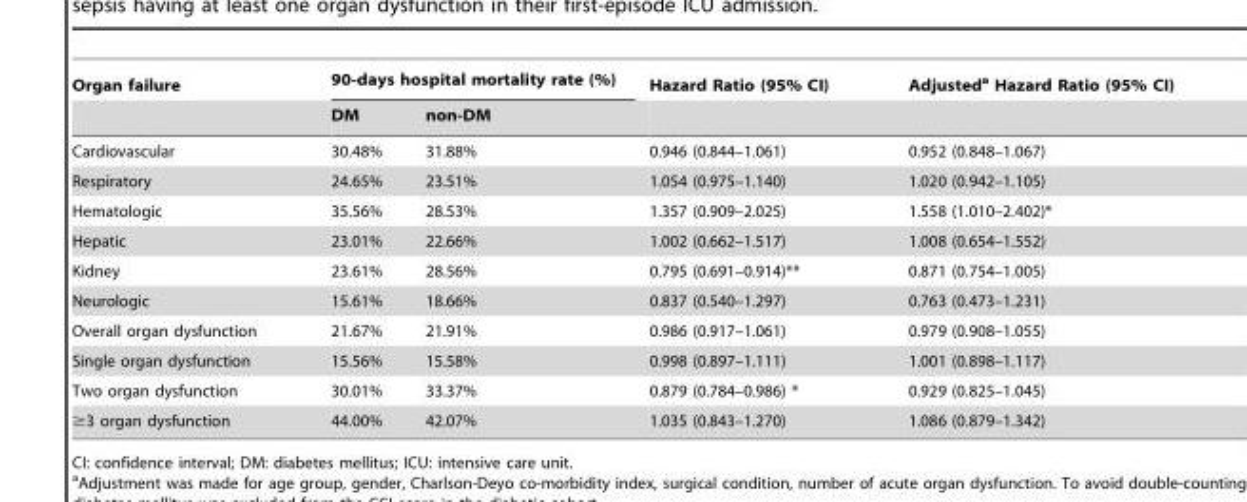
<table><thead><tr><td rowspan="2">Organ failure</td><td colspan="2">90-days hospital mortality rate (%)</td><td rowspan="2">Hazard Ratio (95% CI)</td><td rowspan="2">Adjusted<sup>a</sup> Hazard Ratio (95% CI)</td></tr><tr><td>DM</td><td>non-DM</td></tr></thead><tbody><tr><td>Cardiovascular</td><td>30.48%</td><td>31.88%</td><td>0.946 (0.844–1.061)</td><td>0.952 (0.848–1.067)</td></tr><tr><td>Respiratory</td><td>24.65%</td><td>23.51%</td><td>1.054 (0.975–1.140)</td><td>1.020 (0.942–1.105)</td></tr><tr><td>Hematologic</td><td>35.56%</td><td>28.53%</td><td>1.357 (0.909–2.025)</td><td>1.558 (1.010–2.402)*</td></tr><tr><td>Hepatic</td><td>23.01%</td><td>22.66%</td><td>1.002 (0.662–1.517)</td><td>1.008 (0.654–1.552)</td></tr><tr><td>Kidney</td><td>23.61%</td><td>28.56%</td><td>0.795 (0.691–0.914)**</td><td>0.871 (0.754–1.005)</td></tr><tr><td>Neurologic</td><td>15.61%</td><td>18.66%</td><td>0.837 (0.540–1.297)</td><td>0.763 (0.473–1.231)</td></tr><tr><td>Overall organ dysfunction</td><td>21.67%</td><td>21.91%</td><td>0.986 (0.917–1.061)</td><td>0.979 (0.908–1.055)</td></tr><tr><td>Single organ dysfunction</td><td>15.56%</td><td>15.58%</td><td>0.998 (0.897–1.111)</td><td>1.001 (0.898–1.117)</td></tr><tr><td>Two organ dysfunction</td><td>30.01%</td><td>33.37%</td><td>0.879 (0.784–0.986) *</td><td>0.929 (0.825–1.045)</td></tr><tr><td>≥3 organ dysfunction</td><td>44.00%</td><td>42.07%</td><td>1.035 (0.843–1.270)</td><td>1.086 (0.879–1.342)</td></tr></tbody></table>